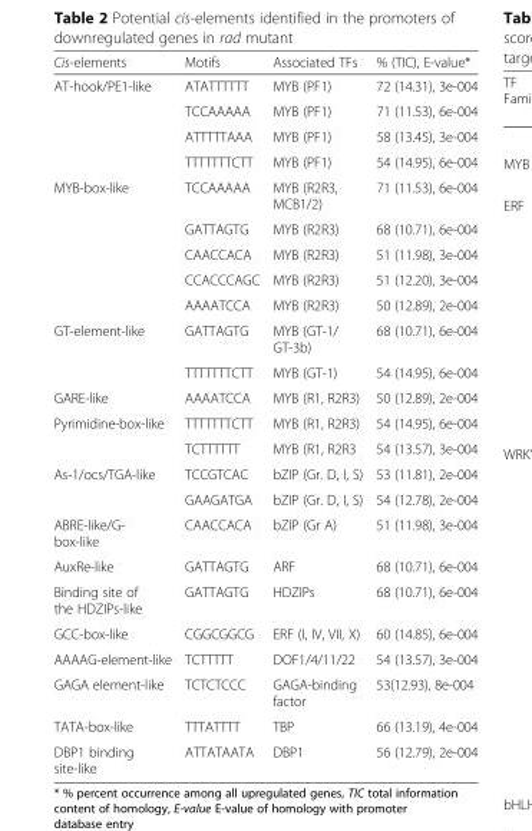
<table><thead><tr><td>Cis-elements</td><td>Motifs</td><td>Associated TFs</td><td>% (TIC), E-value*</td></tr></thead><tbody><tr><td rowspan="4">AT-hook/PE1-like</td><td>ATATTTTTT</td><td>MYB (PF1)</td><td>72 (14.31), 3e-004</td></tr><tr><td>TCCAAAAA</td><td>MYB (PF1)</td><td>71 (11.53), 6e-004</td></tr><tr><td>ATTTTTAAA</td><td>MYB (PF1)</td><td>58 (13.45), 3e-004</td></tr><tr><td>TTTTTTTCTT</td><td>MYB (PF1)</td><td>54 (14.95), 6e-004</td></tr><tr><td rowspan="5">MYB-box-like</td><td>TCCAAAAA</td><td>MYB (R2R3, MCB1/2)</td><td>71 (11.53), 6e-004</td></tr><tr><td>GATTAGTG</td><td>MYB (R2R3)</td><td>68 (10.71), 6e-004</td></tr><tr><td>CAACCACA</td><td>MYB (R2R3)</td><td>51 (11.98), 3e-004</td></tr><tr><td>CCACCCAGC</td><td>MYB (R2R3)</td><td>51 (12.20), 3e-004</td></tr><tr><td>AAAATCCA</td><td>MYB (R2R3)</td><td>50 (12.89), 2e-004</td></tr><tr><td rowspan="2">GT-element-like</td><td>GATTAGTG</td><td>MYB (GT-1/ GT-3b)</td><td>68 (10.71), 6e-004</td></tr><tr><td>TTTTTTTCTT</td><td>MYB (GT-1)</td><td>54 (14.95), 6e-004</td></tr><tr><td>GARE-like</td><td>AAAATCCA</td><td>MYB (R1, R2R3)</td><td>50 (12.89), 2e-004</td></tr><tr><td rowspan="2">Pyrimidine-box-like</td><td>TTTTTTTCTT</td><td>MYB (R1, R2R3)</td><td>54 (14.95), 6e-004</td></tr><tr><td>TCTTTTTT</td><td>MYB (R1, R2R3</td><td>54 (13.57), 3e-004</td></tr><tr><td rowspan="2">As-1/ocs/TGA-like</td><td>TCCGTCAC</td><td>bZIP (Gr. D, I, S)</td><td>53 (11.81), 2e-004</td></tr><tr><td>GAAGATGA</td><td>bZIP (Gr. D, I, S)</td><td>54 (12.78), 2e-004</td></tr><tr><td>ABRE-like/G- box-like</td><td>CAACCACA</td><td>bZIP (Gr A)</td><td>51 (11.98), 3e-004</td></tr><tr><td>AuxRe-like</td><td>GATTAGTG</td><td>ARF</td><td>68 (10.71), 6e-004</td></tr><tr><td>Binding site of the HDZIPs-like</td><td>GATTAGTG</td><td>HDZIPs</td><td>68 (10.71), 6e-004</td></tr><tr><td>GCC-box-like</td><td>CGGCGGCG</td><td>ERF (I, IV, VII, X)</td><td>60 (14.85), 6e-004</td></tr><tr><td>AAAAG-element-like</td><td>TCTTTTT</td><td>DOF1/4/11/22</td><td>54 (13.57), 3e-004</td></tr><tr><td>GAGA element-like</td><td>TCTCTCCC</td><td>GAGA-binding factor</td><td>53(12.93), 8e-004</td></tr><tr><td>TATA-box-like</td><td>TTTATTTT</td><td>TBP</td><td>66 (13.19), 4e-004</td></tr><tr><td>DBP1 binding site-like</td><td>ATTATAATA</td><td>DBP1</td><td>56 (12.79), 2e-004</td></tr></tbody></table>